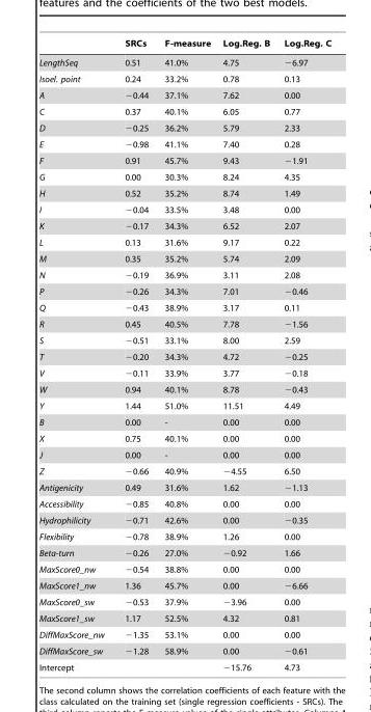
<table><thead><tr><td></td><td>SRCs</td><td>F-measure</td><td>Log.Reg. B</td><td>Log.Reg. C</td></tr></thead><tbody><tr><td>LengthSeq</td><td>0.51</td><td>41.0%</td><td>4.75</td><td>−6.97</td></tr><tr><td>Isoel. point</td><td>0.24</td><td>33.2%</td><td>0.78</td><td>0.13</td></tr><tr><td>A</td><td>−0.44</td><td>37.1%</td><td>7.62</td><td>0.00</td></tr><tr><td>C</td><td>0.37</td><td>40.1%</td><td>6.05</td><td>0.77</td></tr><tr><td>D</td><td>−0.25</td><td>36.2%</td><td>5.79</td><td>2.33</td></tr><tr><td>E</td><td>−0.98</td><td>41.1%</td><td>7.40</td><td>0.28</td></tr><tr><td>F</td><td>0.91</td><td>45.7%</td><td>9.43</td><td>−1.91</td></tr><tr><td>G</td><td>0.00</td><td>30.3%</td><td>8.24</td><td>4.35</td></tr><tr><td>H</td><td>0.52</td><td>35.2%</td><td>8.74</td><td>1.49</td></tr><tr><td>I</td><td>−0.04</td><td>33.5%</td><td>3.48</td><td>0.00</td></tr><tr><td>K</td><td>−0.17</td><td>34.3%</td><td>6.52</td><td>2.07</td></tr><tr><td>L</td><td>0.13</td><td>31.6%</td><td>9.17</td><td>0.22</td></tr><tr><td>M</td><td>0.35</td><td>35.2%</td><td>5.74</td><td>2.09</td></tr><tr><td>N</td><td>−0.19</td><td>36.9%</td><td>3.11</td><td>2.08</td></tr><tr><td>P</td><td>−0.26</td><td>34.3%</td><td>7.01</td><td>−0.46</td></tr><tr><td>Q</td><td>−0.43</td><td>38.9%</td><td>3.17</td><td>0.11</td></tr><tr><td>R</td><td>0.45</td><td>40.5%</td><td>7.78</td><td>−1.56</td></tr><tr><td>S</td><td>−0.51</td><td>33.1%</td><td>8.00</td><td>2.59</td></tr><tr><td>T</td><td>−0.20</td><td>34.3%</td><td>4.72</td><td>−0.25</td></tr><tr><td>V</td><td>−0.11</td><td>33.9%</td><td>3.77</td><td>−0.18</td></tr><tr><td>W</td><td>0.94</td><td>40.1%</td><td>8.78</td><td>−0.43</td></tr><tr><td>Y</td><td>1.44</td><td>51.0%</td><td>11.51</td><td>4.49</td></tr><tr><td>B</td><td>0.00</td><td>-</td><td>0.00</td><td>0.00</td></tr><tr><td>X</td><td>0.75</td><td>40.1%</td><td>0.00</td><td>0.00</td></tr><tr><td>J</td><td>0.00</td><td>-</td><td>0.00</td><td>0.00</td></tr><tr><td>Z</td><td>−0.66</td><td>40.9%</td><td>−4.55</td><td>6.50</td></tr><tr><td>Antigenicity</td><td>0.49</td><td>31.6%</td><td>1.62</td><td>−1.13</td></tr><tr><td>Accessibility</td><td>−0.85</td><td>40.8%</td><td>0.00</td><td>0.00</td></tr><tr><td>Hydrophilicity</td><td>−0.71</td><td>42.6%</td><td>0.00</td><td>−0.35</td></tr><tr><td>Flexibility</td><td>−0.78</td><td>38.9%</td><td>1.26</td><td>0.00</td></tr><tr><td>Beta-turn</td><td>−0.26</td><td>27.0%</td><td>−0.92</td><td>1.66</td></tr><tr><td>MaxScore0_nw</td><td>−0.54</td><td>38.8%</td><td>0.00</td><td>0.00</td></tr><tr><td>MaxScore1_nw</td><td>1.36</td><td>45.7%</td><td>0.00</td><td>−6.66</td></tr><tr><td>MaxScore0_sw</td><td>−0.53</td><td>37.9%</td><td>−3.96</td><td>0.00</td></tr><tr><td>MaxScore1_sw</td><td>1.17</td><td>52.5%</td><td>4.32</td><td>0.81</td></tr><tr><td>DiffMaxScore_nw</td><td>−1.35</td><td>53.1%</td><td>0.00</td><td>0.00</td></tr><tr><td>DiffMaxScore_sw</td><td>−1.28</td><td>58.9%</td><td>0.00</td><td>−0.61</td></tr><tr><td>Intercept</td><td></td><td></td><td>−15.76</td><td>4.73</td></tr></tbody></table>